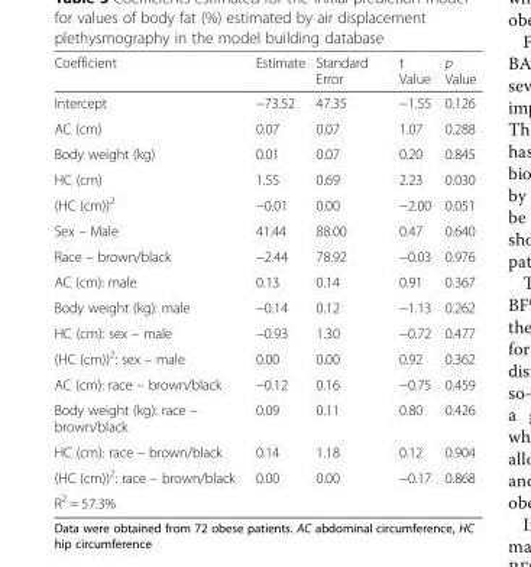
<table><thead><tr><td>Coefficient</td><td>Estimate</td><td>Standard Error</td><td>t Value</td><td>p Value</td></tr></thead><tbody><tr><td>Intercept</td><td>−73.52</td><td>47.35</td><td>−1.55</td><td>0.126</td></tr><tr><td>AC (cm)</td><td>0.07</td><td>0.07</td><td>1.07</td><td>0.288</td></tr><tr><td>Body weight (kg)</td><td>0.01</td><td>0.07</td><td>0.20</td><td>0.845</td></tr><tr><td>HC (cm)</td><td>1.55</td><td>0.69</td><td>2.23</td><td>0.030</td></tr><tr><td>(HC (cm))<sup>2</sup></td><td>−0.01</td><td>0.00</td><td>−2.00</td><td>0.051</td></tr><tr><td>Sex – Male</td><td>41.44</td><td>88.00</td><td>0.47</td><td>0.640</td></tr><tr><td>Race – brown/black</td><td>−2.44</td><td>78.92</td><td>−0.03</td><td>0.976</td></tr><tr><td>AC (cm): male</td><td>0.13</td><td>0.14</td><td>0.91</td><td>0.367</td></tr><tr><td>Body weight (kg): male</td><td>−0.14</td><td>0.12</td><td>−1.13</td><td>0.262</td></tr><tr><td>HC (cm): sex – male</td><td>−0.93</td><td>1.30</td><td>−0.72</td><td>0.477</td></tr><tr><td>(HC (cm))<sup>2</sup>: sex – male</td><td>0.00</td><td>0.00</td><td>0.92</td><td>0.362</td></tr><tr><td>AC (cm): race – brown/black</td><td>−0.12</td><td>0.16</td><td>−0.75</td><td>0.459</td></tr><tr><td>Body weight (kg): race – brown/black</td><td>0.09</td><td>0.11</td><td>0.80</td><td>0.426</td></tr><tr><td>HC (cm): race – brown/black</td><td>0.14</td><td>1.18</td><td>0.12</td><td>0.904</td></tr><tr><td>(HC (cm))<sup>2</sup>: race – brown/black</td><td>0.00</td><td>0.00</td><td>−0.17</td><td>0.868</td></tr><tr><td>R<sup>2</sup> = 57.3%</td><td></td><td></td><td></td><td></td></tr></tbody></table>